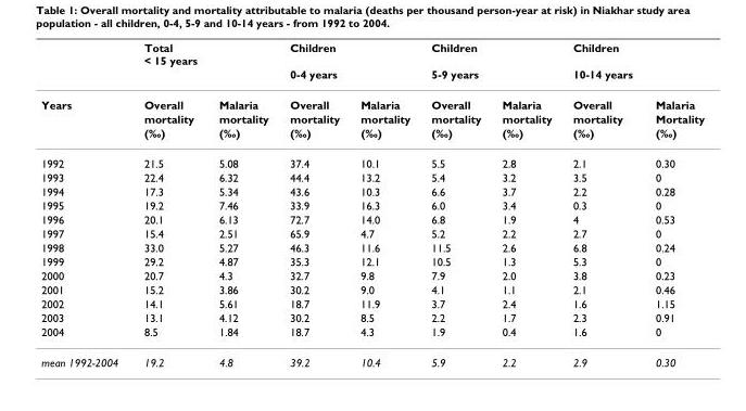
<table><thead><tr><td rowspan="2"></td><td rowspan="2">Total &lt; 15 years</td><td rowspan="2"></td><td rowspan="2">Children 0-4 years</td><td rowspan="2"></td><td rowspan="2">Children 5-9 years</td><td rowspan="2"></td><td rowspan="2">Children 10-14 years</td><td rowspan="2"></td></tr><tr></tr></thead><tbody><tr><td rowspan="3">Years</td><td>Overall</td><td>Malaria</td><td>Overall</td><td>Malaria</td><td>Overall</td><td>Malaria</td><td>Overall</td><td>Malaria</td></tr><tr><td>mortality</td><td>mortality</td><td>mortality</td><td>mortality</td><td>mortality</td><td>mortality</td><td>mortality</td><td>Mortality</td></tr><tr><td>(‰)</td><td>(‰)</td><td>(‰)</td><td>(‰)</td><td>(‰)</td><td>(‰)</td><td>(‰)</td><td>(‰)</td></tr><tr><td>1992</td><td>21.5</td><td>5.08</td><td>37.4</td><td>10.1</td><td>5.5</td><td>2.8</td><td>2.1</td><td>0.30</td></tr><tr><td>1993</td><td>22.4</td><td>6.32</td><td>44.4</td><td>13.2</td><td>5.4</td><td>3.2</td><td>3.5</td><td>0</td></tr><tr><td>1994</td><td>17.3</td><td>5.34</td><td>43.6</td><td>10.3</td><td>6.6</td><td>3.7</td><td>2.2</td><td>0.28</td></tr><tr><td>1995</td><td>19.2</td><td>7.46</td><td>33.9</td><td>16.3</td><td>6.0</td><td>3.4</td><td>0.3</td><td>0</td></tr><tr><td>1996</td><td>20.1</td><td>6.13</td><td>72.7</td><td>14.0</td><td>6.8</td><td>1.9</td><td>4</td><td>0.53</td></tr><tr><td>1997</td><td>15.4</td><td>2.51</td><td>65.9</td><td>4.7</td><td>5.2</td><td>2.2</td><td>2.7</td><td>0</td></tr><tr><td>1998</td><td>33.0</td><td>5.27</td><td>46.3</td><td>11.6</td><td>11.5</td><td>2.6</td><td>6.8</td><td>0.24</td></tr><tr><td>1999</td><td>29.2</td><td>4.87</td><td>35.3</td><td>12.1</td><td>10.5</td><td>1.3</td><td>5.3</td><td>0</td></tr><tr><td>2000</td><td>20.7</td><td>4.3</td><td>32.7</td><td>9.8</td><td>7.9</td><td>2.0</td><td>3.8</td><td>0.23</td></tr><tr><td>2001</td><td>15.2</td><td>3.86</td><td>30.2</td><td>9.0</td><td>4.1</td><td>1.1</td><td>2.1</td><td>0.46</td></tr><tr><td>2002</td><td>14.1</td><td>5.61</td><td>18.7</td><td>11.9</td><td>3.7</td><td>2.4</td><td>1.6</td><td>1.15</td></tr><tr><td>2003</td><td>13.1</td><td>4.12</td><td>30.2</td><td>8.5</td><td>2.2</td><td>1.7</td><td>2.3</td><td>0.91</td></tr><tr><td>2004</td><td>8.5</td><td>1.84</td><td>18.7</td><td>4.3</td><td>1.9</td><td>0.4</td><td>1.6</td><td>0</td></tr><tr><td>mean 1992-2004</td><td>19.2</td><td>4.8</td><td>39.2</td><td>10.4</td><td>5.9</td><td>2.2</td><td>2.9</td><td>0.30</td></tr></tbody></table>